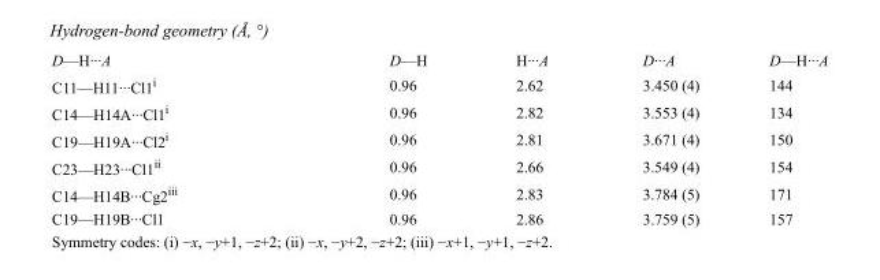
<table><tbody><tr><td>D—H···A</td><td>D—H</td><td>H···A</td><td>D···A</td><td>D—H···A</td></tr><tr><td>C11—H11···Cl1<sup>i</sup></td><td>0.96</td><td>2.62</td><td>3.450 (4)</td><td>144</td></tr><tr><td>C14—H14A···Cl1<sup>i</sup></td><td>0.96</td><td>2.82</td><td>3.553 (4)</td><td>134</td></tr><tr><td>C19—H19A···Cl2<sup>i</sup></td><td>0.96</td><td>2.81</td><td>3.671 (4)</td><td>150</td></tr><tr><td>C23—H23···Cl1<sup>ii</sup></td><td>0.96</td><td>2.66</td><td>3.549 (4)</td><td>154</td></tr><tr><td>C14—H14B···Cg2<sup>iii</sup></td><td>0.96</td><td>2.83</td><td>3.784 (5)</td><td>171</td></tr><tr><td>C19—H19B···Cl1</td><td>0.96</td><td>2.86</td><td>3.759 (5)</td><td>157</td></tr></tbody></table>